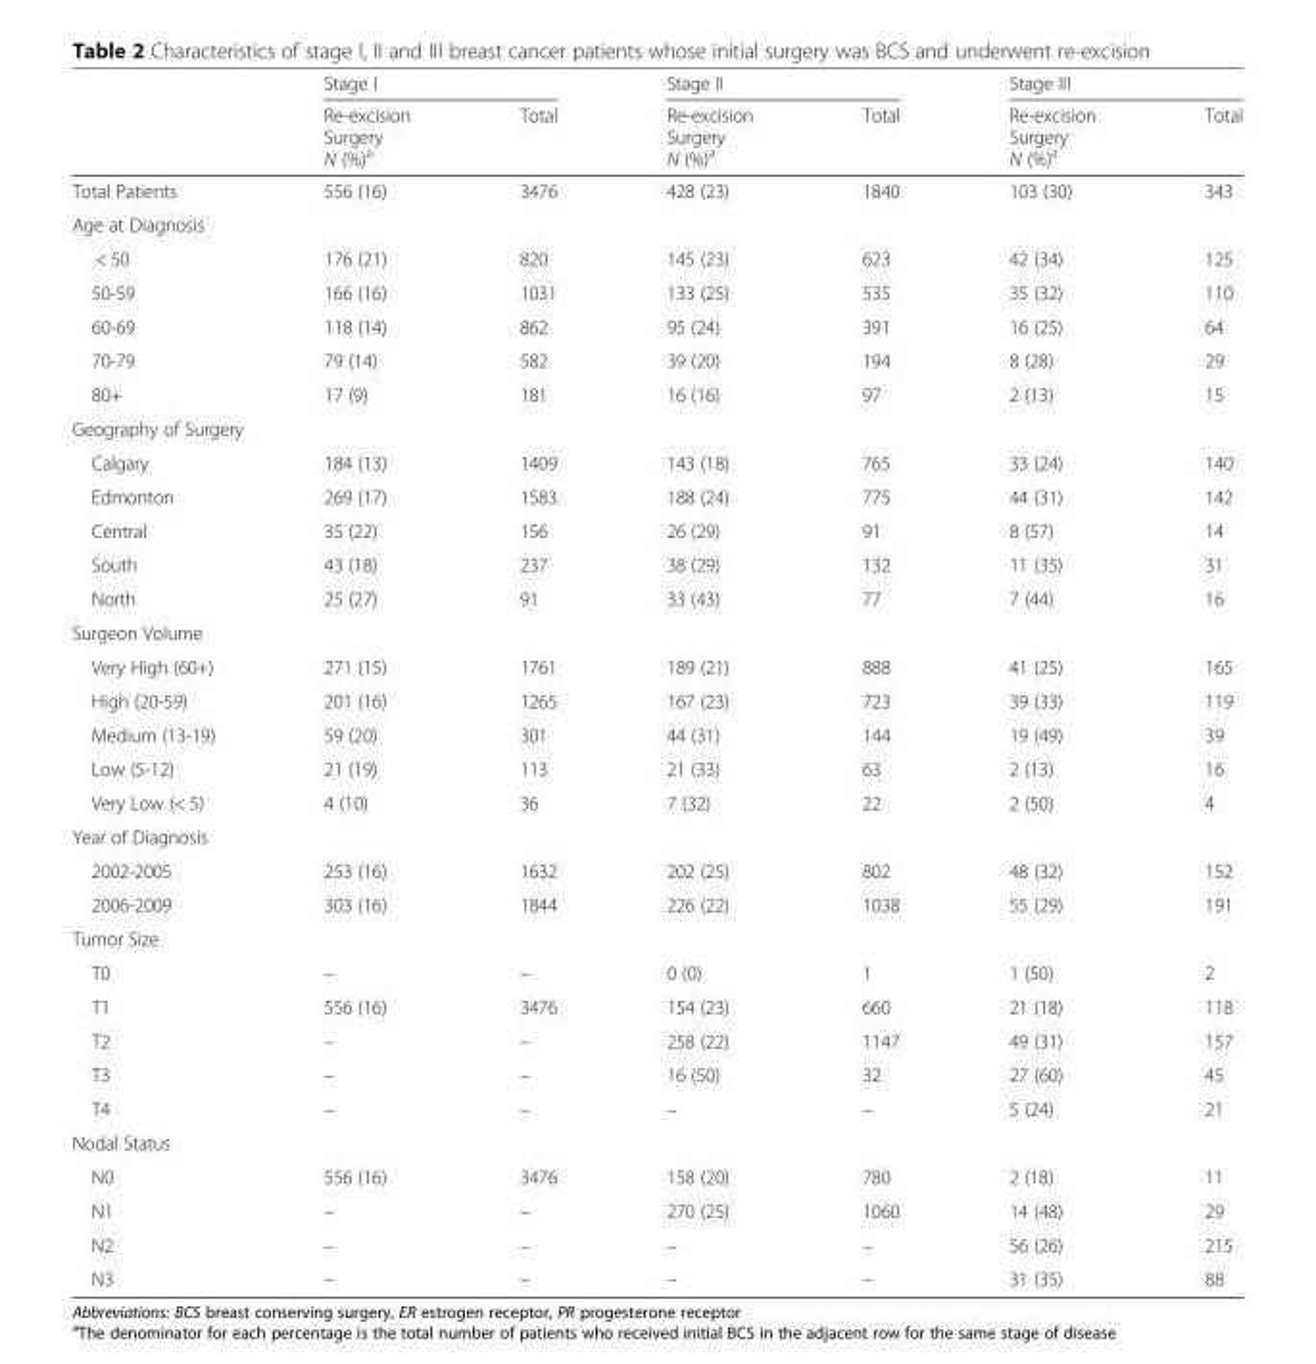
<table><thead><tr><td rowspan="2"></td><td colspan="2">Stage I</td><td colspan="2">Stage II</td><td colspan="2">Stage III</td></tr><tr><td>Re-excision Surgery N (%)<sup>a</sup></td><td>Total</td><td>Re-excision Surgery N (%)<sup>a</sup></td><td>Total</td><td>Re-excision Surgery N (%)<sup>a</sup></td><td>Total</td></tr></thead><tbody><tr><td>Total Patients</td><td>556 (16)</td><td>3476</td><td>428 (23)</td><td>1840</td><td>103 (30)</td><td>343</td></tr><tr><td colspan="7">Age at Diagnosis</td></tr><tr><td>&lt; 50</td><td>176 (21)</td><td>820</td><td>145 (23)</td><td>623</td><td>42 (34)</td><td>125</td></tr><tr><td>50-59</td><td>166 (16)</td><td>1031</td><td>133 (25)</td><td>535</td><td>35 (32)</td><td>110</td></tr><tr><td>60-69</td><td>118 (14)</td><td>862</td><td>95 (24)</td><td>391</td><td>16 (25)</td><td>64</td></tr><tr><td>70-79</td><td>79 (14)</td><td>582</td><td>39 (20)</td><td>194</td><td>8 (28)</td><td>29</td></tr><tr><td>80+</td><td>17 (9)</td><td>181</td><td>16 (16)</td><td>97</td><td>2 (13)</td><td>15</td></tr><tr><td colspan="7">Geography of Surgery</td></tr><tr><td>Calgary</td><td>184 (13)</td><td>1409</td><td>143 (18)</td><td>765</td><td>33 (24)</td><td>140</td></tr><tr><td>Edmonton</td><td>269 (17)</td><td>1583</td><td>188 (24)</td><td>775</td><td>44 (31)</td><td>142</td></tr><tr><td>Central</td><td>35 (22)</td><td>156</td><td>26 (29)</td><td>91</td><td>8 (57)</td><td>14</td></tr><tr><td>South</td><td>43 (18)</td><td>237</td><td>38 (29)</td><td>132</td><td>11 (35)</td><td>31</td></tr><tr><td>North</td><td>25 (27)</td><td>91</td><td>33 (43)</td><td>77</td><td>7 (44)</td><td>16</td></tr><tr><td colspan="7">Surgeon Volume</td></tr><tr><td>Very High (60+)</td><td>271 (15)</td><td>1761</td><td>189 (21)</td><td>888</td><td>41 (25)</td><td>165</td></tr><tr><td>High (20-59)</td><td>201 (16)</td><td>1265</td><td>167 (23)</td><td>723</td><td>39 (33)</td><td>119</td></tr><tr><td>Medium (13-19)</td><td>59 (20)</td><td>301</td><td>44 (31)</td><td>144</td><td>19 (49)</td><td>39</td></tr><tr><td>Low (5-12)</td><td>21 (19)</td><td>113</td><td>21 (33)</td><td>63</td><td>2 (13)</td><td>16</td></tr><tr><td>Very Low (&lt; 5)</td><td>4 (10)</td><td>36</td><td>7 (32)</td><td>22</td><td>2 (50)</td><td>4</td></tr><tr><td colspan="7">Year of Diagnosis</td></tr><tr><td>2002-2005</td><td>253 (16)</td><td>1632</td><td>202 (25)</td><td>802</td><td>48 (32)</td><td>152</td></tr><tr><td>2006-2009</td><td>303 (16)</td><td>1844</td><td>226 (22)</td><td>1038</td><td>55 (29)</td><td>191</td></tr><tr><td colspan="7">Tumor Size</td></tr><tr><td>T0</td><td>–</td><td>–</td><td>0 (0)</td><td>1</td><td>1 (50)</td><td>2</td></tr><tr><td>T1</td><td>556 (16)</td><td>3476</td><td>154 (23)</td><td>660</td><td>21 (18)</td><td>118</td></tr><tr><td>T2</td><td>–</td><td>–</td><td>258 (22)</td><td>1147</td><td>49 (31)</td><td>157</td></tr><tr><td>T3</td><td>–</td><td>–</td><td>16 (50)</td><td>32</td><td>27 (60)</td><td>45</td></tr><tr><td>T4</td><td>–</td><td>–</td><td>–</td><td>–</td><td>5 (24)</td><td>21</td></tr><tr><td colspan="7">Nodal Status</td></tr><tr><td>N0</td><td>556 (16)</td><td>3476</td><td>158 (20)</td><td>780</td><td>2 (18)</td><td>11</td></tr><tr><td>N1</td><td>–</td><td>–</td><td>270 (25)</td><td>1060</td><td>14 (48)</td><td>29</td></tr><tr><td>N2</td><td>–</td><td>–</td><td>–</td><td>–</td><td>56 (26)</td><td>215</td></tr><tr><td>N3</td><td>–</td><td>–</td><td>–</td><td>–</td><td>31 (35)</td><td>88</td></tr></tbody></table>